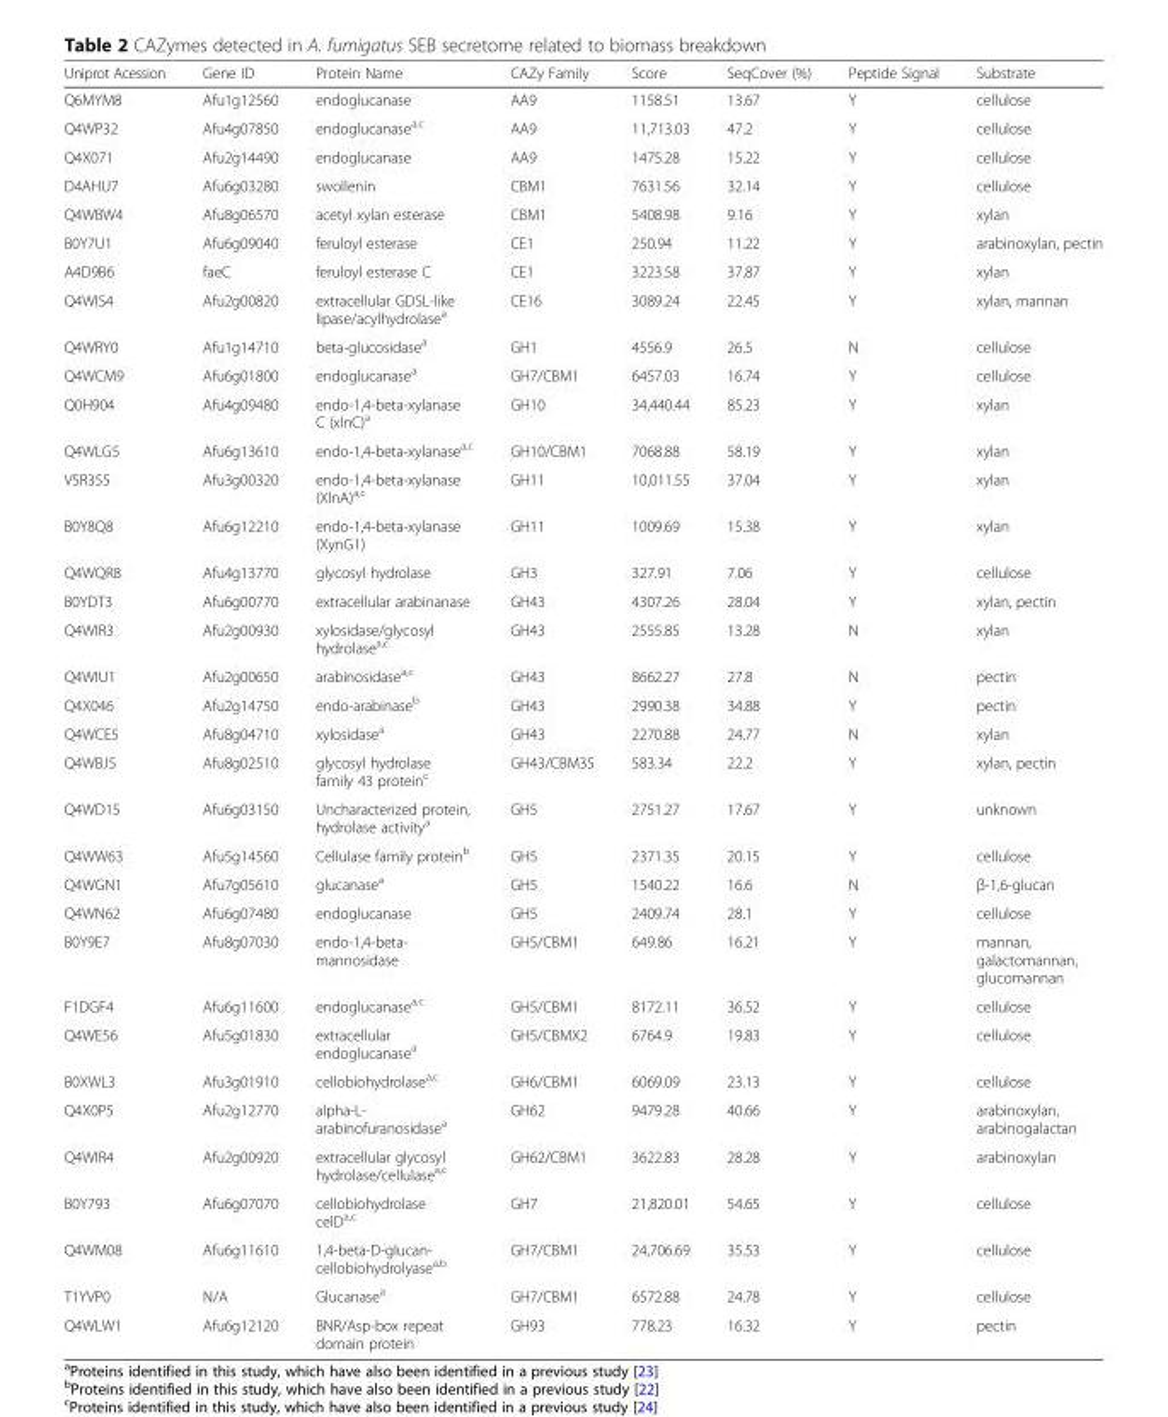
<table><thead><tr><td>Uniprot Acession</td><td>Gene ID</td><td>Protein Name</td><td>CAZy Family</td><td>Score</td><td>SeqCover (%)</td><td>Peptide Signal</td><td>Substrate</td></tr></thead><tbody><tr><td>Q6MYM8</td><td>Afu1g12560</td><td>endoglucanase</td><td>AA9</td><td>1158.51</td><td>13.67</td><td>Y</td><td>cellulose</td></tr><tr><td>Q4WP32</td><td>Afu4g07850</td><td>endoglucanase<sup>a,c</sup></td><td>AA9</td><td>11,713.03</td><td>47.2</td><td>Y</td><td>cellulose</td></tr><tr><td>Q4X071</td><td>Afu2g14490</td><td>endoglucanase</td><td>AA9</td><td>1475.28</td><td>15.22</td><td>Y</td><td>cellulose</td></tr><tr><td>D4AHU7</td><td>Afu6g03280</td><td>swollenin</td><td>CBM1</td><td>7631.56</td><td>32.14</td><td>Y</td><td>cellulose</td></tr><tr><td>Q4WBW4</td><td>Afu8g06570</td><td>acetyl xylan esterase</td><td>CBM1</td><td>5408.98</td><td>9.16</td><td>Y</td><td>xylan</td></tr><tr><td>B0Y7U1</td><td>Afu6g09040</td><td>feruloyl esterase</td><td>CE1</td><td>250.94</td><td>11.22</td><td>Y</td><td>arabinoxylan, pectin</td></tr><tr><td>A4D9B6</td><td>faeC</td><td>feruloyl esterase C</td><td>CE1</td><td>3223.58</td><td>37.87</td><td>Y</td><td>xylan</td></tr><tr><td>Q4WIS4</td><td>Afu2g00820</td><td>extracellular GDSL-like lipase/acylhydrolase<sup>a</sup></td><td>CE16</td><td>3089.24</td><td>22.45</td><td>Y</td><td>xylan, mannan</td></tr><tr><td>Q4WRY0</td><td>Afu1g14710</td><td>beta-glucosidase<sup>a</sup></td><td>GH1</td><td>4556.9</td><td>26.5</td><td>N</td><td>cellulose</td></tr><tr><td>Q4WCM9</td><td>Afu6g01800</td><td>endoglucanase<sup>a</sup></td><td>GH7/CBM1</td><td>6457.03</td><td>16.74</td><td>Y</td><td>cellulose</td></tr><tr><td>Q0H904</td><td>Afu4g09480</td><td>endo-1,4-beta-xylanase C (xlnC)<sup>a</sup></td><td>GH10</td><td>34,440.44</td><td>85.23</td><td>Y</td><td>xylan</td></tr><tr><td>Q4WLG5</td><td>Afu6g13610</td><td>endo-1,4-beta-xylanase<sup>a,c</sup></td><td>GH10/CBM1</td><td>7068.88</td><td>58.19</td><td>Y</td><td>xylan</td></tr><tr><td>V5R355</td><td>Afu3g00320</td><td>endo-1,4-beta-xylanase (XlnA)<sup>a,c</sup></td><td>GH11</td><td>10,011.55</td><td>37.04</td><td>Y</td><td>xylan</td></tr><tr><td>B0Y8Q8</td><td>Afu6g12210</td><td>endo-1,4-beta-xylanase (XynG1)</td><td>GH11</td><td>1009.69</td><td>15.38</td><td>Y</td><td>xylan</td></tr><tr><td>Q4WQR8</td><td>Afu4g13770</td><td>glycosyl hydrolase</td><td>GH3</td><td>327.91</td><td>7.06</td><td>Y</td><td>cellulose</td></tr><tr><td>B0YDT3</td><td>Afu6g00770</td><td>extracellular arabinanase</td><td>GH43</td><td>4307.26</td><td>28.04</td><td>Y</td><td>xylan, pectin</td></tr><tr><td>Q4WIR3</td><td>Afu2g00930</td><td>xylosidase/glycosyl hydrolase<sup>a,c</sup></td><td>GH43</td><td>2555.85</td><td>13.28</td><td>N</td><td>xylan</td></tr><tr><td>Q4WIU1</td><td>Afu2g00650</td><td>arabinosidase<sup>a,c</sup></td><td>GH43</td><td>8662.27</td><td>27.8</td><td>N</td><td>pectin</td></tr><tr><td>Q4X046</td><td>Afu2g14750</td><td>endo-arabinase<sup>b</sup></td><td>GH43</td><td>2990.38</td><td>34.88</td><td>Y</td><td>pectin</td></tr><tr><td>Q4WCE5</td><td>Afu8g04710</td><td>xylosidase<sup>a</sup></td><td>GH43</td><td>2270.88</td><td>24.77</td><td>N</td><td>xylan</td></tr><tr><td>Q4WBJ5</td><td>Afu8g02510</td><td>glycosyl hydrolase family 43 protein<sup>c</sup></td><td>GH43/CBM35</td><td>583.34</td><td>22.2</td><td>Y</td><td>xylan, pectin</td></tr><tr><td>Q4WD15</td><td>Afu6g03150</td><td>Uncharacterized protein, hydrolase activity<sup>a</sup></td><td>GH5</td><td>2751.27</td><td>17.67</td><td>Y</td><td>unknown</td></tr><tr><td>Q4WW63</td><td>Afu5g14560</td><td>Cellulase family protein<sup>b</sup></td><td>GH5</td><td>2371.35</td><td>20.15</td><td>Y</td><td>cellulose</td></tr><tr><td>Q4WGN1</td><td>Afu7g05610</td><td>glucanase<sup>a</sup></td><td>GH5</td><td>1540.22</td><td>16.6</td><td>N</td><td>β-1,6-glucan</td></tr><tr><td>Q4WN62</td><td>Afu6g07480</td><td>endoglucanase</td><td>GH5</td><td>2409.74</td><td>28.1</td><td>Y</td><td>cellulose</td></tr><tr><td>B0Y9E7</td><td>Afu8g07030</td><td>endo-1,4-beta- mannosidase</td><td>GH5/CBM1</td><td>649.86</td><td>16.21</td><td>Y</td><td>mannan, galactomannan, glucomannan</td></tr><tr><td>F1DGF4</td><td>Afu6g11600</td><td>endoglucanase<sup>a,c</sup></td><td>GH5/CBM1</td><td>8172.11</td><td>36.52</td><td>Y</td><td>cellulose</td></tr><tr><td>Q4WE56</td><td>Afu5g01830</td><td>extracellular endoglucanase<sup>a</sup></td><td>GH5/CBMX2</td><td>6764.9</td><td>19.83</td><td>Y</td><td>cellulose</td></tr><tr><td>B0XWL3</td><td>Afu3g01910</td><td>cellobiohydrolase<sup>a,c</sup></td><td>GH6/CBM1</td><td>6069.09</td><td>23.13</td><td>Y</td><td>cellulose</td></tr><tr><td>Q4X0P5</td><td>Afu2g12770</td><td>alpha-L- arabinofuranosidase<sup>a</sup></td><td>GH62</td><td>9479.28</td><td>40.66</td><td>Y</td><td>arabinoxylan, arabinogalactan</td></tr><tr><td>Q4WIR4</td><td>Afu2g00920</td><td>extracellular glycosyl hydrolase/cellulase<sup>a,c</sup></td><td>GH62/CBM1</td><td>3622.83</td><td>28.28</td><td>Y</td><td>arabinoxylan</td></tr><tr><td>B0Y793</td><td>Afu6g07070</td><td>cellobiohydrolase celD<sup>a,c</sup></td><td>GH7</td><td>21,820.01</td><td>54.65</td><td>Y</td><td>cellulose</td></tr><tr><td>Q4WM08</td><td>Afu6g11610</td><td>1,4-beta-D-glucan- cellobiohydrolyase<sup>a,b</sup></td><td>GH7/CBM1</td><td>24,706.69</td><td>35.53</td><td>Y</td><td>cellulose</td></tr><tr><td>T1YVP0</td><td>N/A</td><td>Glucanase<sup>a</sup></td><td>GH7/CBM1</td><td>6572.88</td><td>24.78</td><td>Y</td><td>cellulose</td></tr><tr><td>Q4WLW1</td><td>Afu6g12120</td><td>BNR/Asp-box repeat domain protein</td><td>GH93</td><td>778.23</td><td>16.32</td><td>Y</td><td>pectin</td></tr></tbody></table>